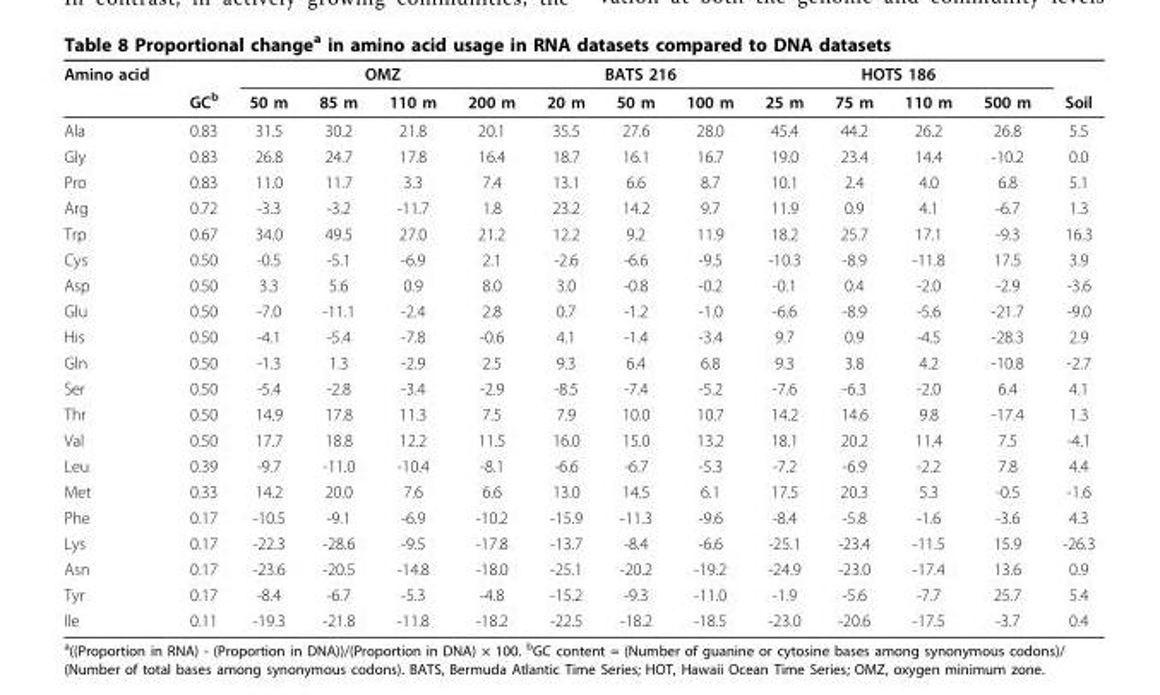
<table><thead><tr><td rowspan="2">Amino acid</td><td rowspan="2">GC<sup>b</sup></td><td colspan="4">OMZ</td><td colspan="3">BATS 216</td><td colspan="4">HOTS 186</td><td rowspan="2">Soil</td></tr><tr><td>50 m</td><td>85 m</td><td>110 m</td><td>200 m</td><td>20 m</td><td>50 m</td><td>100 m</td><td>25 m</td><td>75 m</td><td>110 m</td><td>500 m</td></tr></thead><tbody><tr><td>Ala</td><td>0.83</td><td>31.5</td><td>30.2</td><td>21.8</td><td>20.1</td><td>35.5</td><td>27.6</td><td>28.0</td><td>45.4</td><td>44.2</td><td>26.2</td><td>26.8</td><td>5.5</td></tr><tr><td>Gly</td><td>0.83</td><td>26.8</td><td>24.7</td><td>17.8</td><td>16.4</td><td>18.7</td><td>16.1</td><td>16.7</td><td>19.0</td><td>23.4</td><td>14.4</td><td>-10.2</td><td>0.0</td></tr><tr><td>Pro</td><td>0.83</td><td>11.0</td><td>11.7</td><td>3.3</td><td>7.4</td><td>13.1</td><td>6.6</td><td>8.7</td><td>10.1</td><td>2.4</td><td>4.0</td><td>6.8</td><td>5.1</td></tr><tr><td>Arg</td><td>0.72</td><td>-3.3</td><td>-3.2</td><td>-11.7</td><td>1.8</td><td>23.2</td><td>14.2</td><td>9.7</td><td>11.9</td><td>0.9</td><td>4.1</td><td>-6.7</td><td>1.3</td></tr><tr><td>Trp</td><td>0.67</td><td>34.0</td><td>49.5</td><td>27.0</td><td>21.2</td><td>12.2</td><td>9.2</td><td>11.9</td><td>18.2</td><td>25.7</td><td>17.1</td><td>-9.3</td><td>16.3</td></tr><tr><td>Cys</td><td>0.50</td><td>-0.5</td><td>-5.1</td><td>-6.9</td><td>2.1</td><td>-2.6</td><td>-6.6</td><td>-9.5</td><td>-10.3</td><td>-8.9</td><td>-11.8</td><td>17.5</td><td>3.9</td></tr><tr><td>Asp</td><td>0.50</td><td>3.3</td><td>5.6</td><td>0.9</td><td>8.0</td><td>3.0</td><td>-0.8</td><td>-0.2</td><td>-0.1</td><td>0.4</td><td>-2.0</td><td>-2.9</td><td>-3.6</td></tr><tr><td>Glu</td><td>0.50</td><td>-7.0</td><td>-11.1</td><td>-2.4</td><td>2.8</td><td>0.7</td><td>-1.2</td><td>-1.0</td><td>-6.6</td><td>-8.9</td><td>-5.6</td><td>-21.7</td><td>-9.0</td></tr><tr><td>His</td><td>0.50</td><td>-4.1</td><td>-5.4</td><td>-7.8</td><td>-0.6</td><td>4.1</td><td>-1.4</td><td>-3.4</td><td>9.7</td><td>0.9</td><td>-4.5</td><td>-28.3</td><td>2.9</td></tr><tr><td>Gln</td><td>0.50</td><td>-1.3</td><td>1.3</td><td>-2.9</td><td>2.5</td><td>9.3</td><td>6.4</td><td>6.8</td><td>9.3</td><td>3.8</td><td>4.2</td><td>-10.8</td><td>-2.7</td></tr><tr><td>Ser</td><td>0.50</td><td>-5.4</td><td>-2.8</td><td>-3.4</td><td>-2.9</td><td>-8.5</td><td>-7.4</td><td>-5.2</td><td>-7.6</td><td>-6.3</td><td>-2.0</td><td>6.4</td><td>4.1</td></tr><tr><td>Thr</td><td>0.50</td><td>14.9</td><td>17.8</td><td>11.3</td><td>7.5</td><td>7.9</td><td>10.0</td><td>10.7</td><td>14.2</td><td>14.6</td><td>9.8</td><td>-17.4</td><td>1.3</td></tr><tr><td>Val</td><td>0.50</td><td>17.7</td><td>18.8</td><td>12.2</td><td>11.5</td><td>16.0</td><td>15.0</td><td>13.2</td><td>18.1</td><td>20.2</td><td>11.4</td><td>7.5</td><td>-4.1</td></tr><tr><td>Leu</td><td>0.39</td><td>-9.7</td><td>-11.0</td><td>-10.4</td><td>-8.1</td><td>-6.6</td><td>-6.7</td><td>-5.3</td><td>-7.2</td><td>-6.9</td><td>-2.2</td><td>7.8</td><td>4.4</td></tr><tr><td>Met</td><td>0.33</td><td>14.2</td><td>20.0</td><td>7.6</td><td>6.6</td><td>13.0</td><td>14.5</td><td>6.1</td><td>17.5</td><td>20.3</td><td>5.3</td><td>-0.5</td><td>-1.6</td></tr><tr><td>Phe</td><td>0.17</td><td>-10.5</td><td>-9.1</td><td>-6.9</td><td>-10.2</td><td>-15.9</td><td>-11.3</td><td>-9.6</td><td>-8.4</td><td>-5.8</td><td>-1.6</td><td>-3.6</td><td>4.3</td></tr><tr><td>Lys</td><td>0.17</td><td>-22.3</td><td>-28.6</td><td>-9.5</td><td>-17.8</td><td>-13.7</td><td>-8.4</td><td>-6.6</td><td>-25.1</td><td>-23.4</td><td>-11.5</td><td>15.9</td><td>-26.3</td></tr><tr><td>Asn</td><td>0.17</td><td>-23.6</td><td>-20.5</td><td>-14.8</td><td>-18.0</td><td>-25.1</td><td>-20.2</td><td>-19.2</td><td>-24.9</td><td>-23.0</td><td>-17.4</td><td>13.6</td><td>0.9</td></tr><tr><td>Tyr</td><td>0.17</td><td>-8.4</td><td>-6.7</td><td>-5.3</td><td>-4.8</td><td>-15.2</td><td>-9.3</td><td>-11.0</td><td>-1.9</td><td>-5.6</td><td>-7.7</td><td>25.7</td><td>5.4</td></tr><tr><td>Ile</td><td>0.11</td><td>-19.3</td><td>-21.8</td><td>-11.8</td><td>-18.2</td><td>-22.5</td><td>-18.2</td><td>-18.5</td><td>-23.0</td><td>-20.6</td><td>-17.5</td><td>-3.7</td><td>0.4</td></tr></tbody></table>